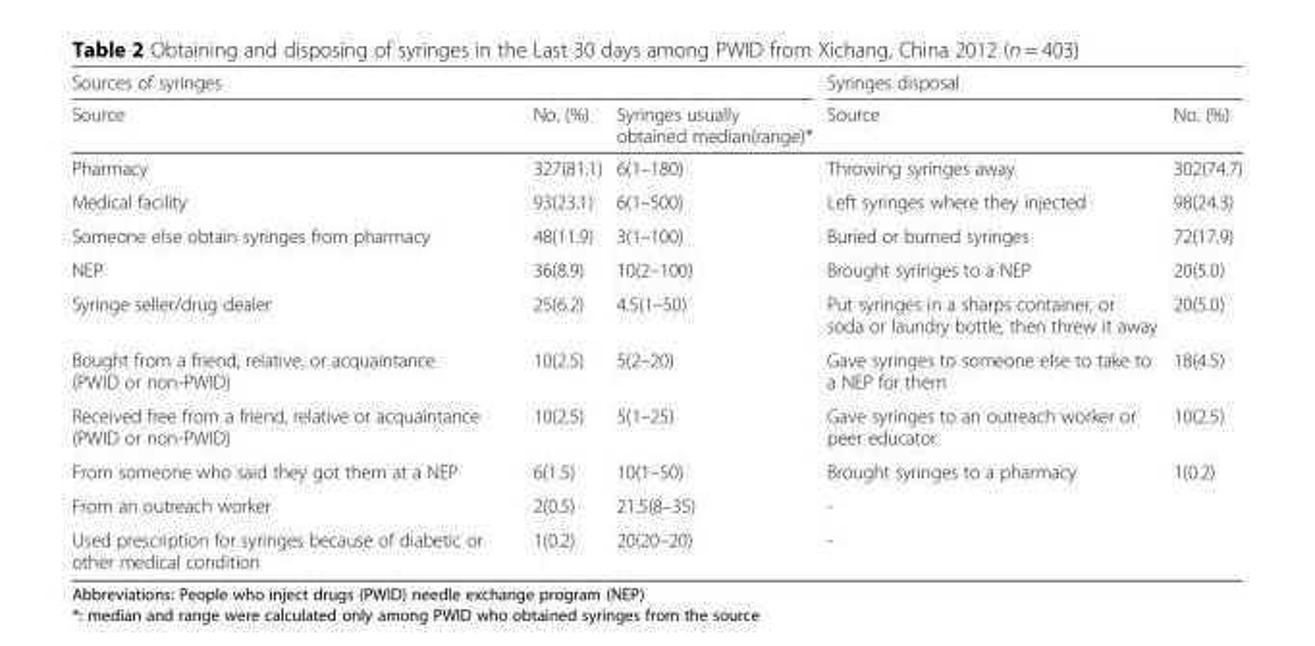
<table><thead><tr><td colspan="3">Sources of syringes</td><td colspan="2">Syringes disposal</td></tr><tr><td>Source</td><td>No. (%)</td><td>Syringes usually obtained median(range)*</td><td>Source</td><td>No. (%)</td></tr></thead><tbody><tr><td>Pharmacy</td><td>327(81.1)</td><td>6(1–180)</td><td>Throwing syringes away</td><td>302(74.7)</td></tr><tr><td>Medical facility</td><td>93(23.1)</td><td>6(1–500)</td><td>Left syringes where they injected</td><td>98(24.3)</td></tr><tr><td>Someone else obtain syringes from pharmacy</td><td>48(11.9)</td><td>3(1–100)</td><td>Buried or burned syringes</td><td>72(17.9)</td></tr><tr><td>NEP</td><td>36(8.9)</td><td>10(2–100)</td><td>Brought syringes to a NEP</td><td>20(5.0)</td></tr><tr><td>Syringe seller/drug dealer</td><td>25(6.2)</td><td>4.5(1–50)</td><td>Put syringes in a sharps container, or soda or laundry bottle, then threw it away</td><td>20(5.0)</td></tr><tr><td>Bought from a friend, relative, or acquaintance (PWID or non-PWID)</td><td>10(2.5)</td><td>5(2–20)</td><td>Gave syringes to someone else to take to a NEP for them</td><td>18(4.5)</td></tr><tr><td>Received free from a friend, relative or acquaintance (PWID or non-PWID)</td><td>10(2.5)</td><td>5(1–25)</td><td>Gave syringes to an outreach worker or peer educator</td><td>10(2.5)</td></tr><tr><td>From someone who said they got them at a NEP</td><td>6(1.5)</td><td>10(1–50)</td><td>Brought syringes to a pharmacy</td><td>1(0.2)</td></tr><tr><td>From an outreach worker</td><td>2(0.5)</td><td>21.5(8–35)</td><td>-</td><td></td></tr><tr><td>Used prescription for syringes because of diabetic or other medical condition</td><td>1(0.2)</td><td>20(20–20)</td><td>-</td><td></td></tr></tbody></table>